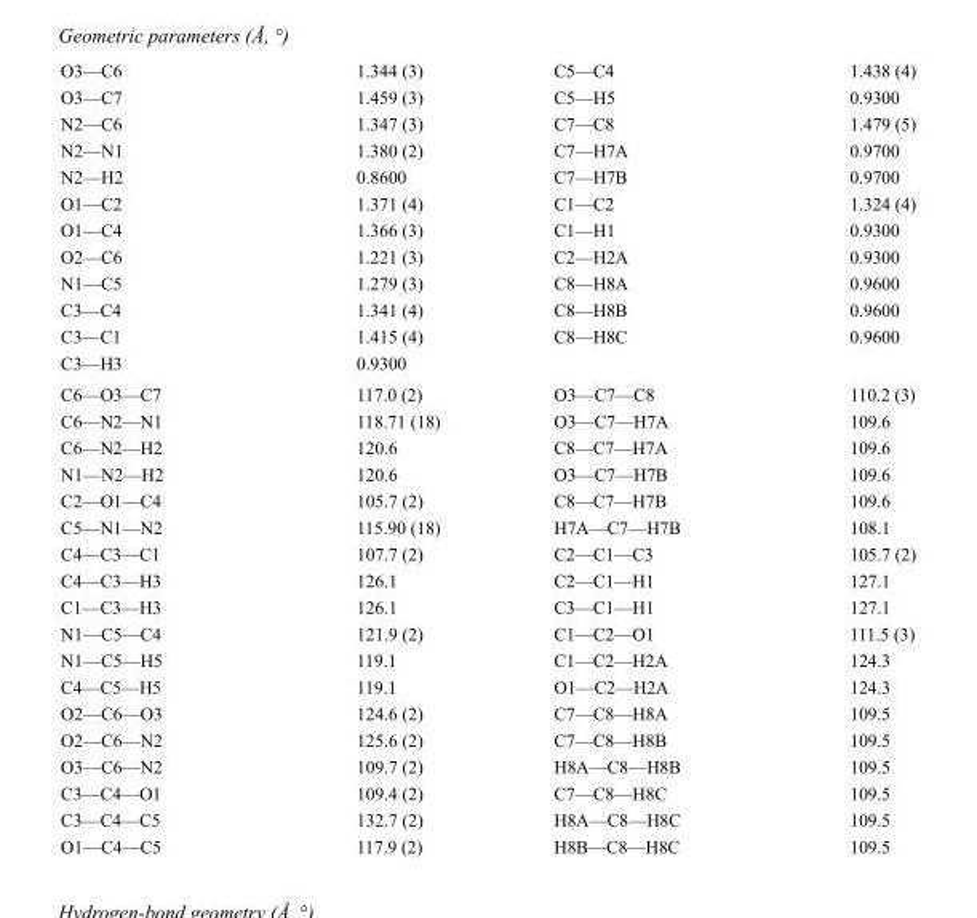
<table><tbody><tr><td>O3—C6</td><td>1.344 (3)</td><td>C5—C4</td><td>1.438 (4)</td></tr><tr><td>O3—C7</td><td>1.459 (3)</td><td>C5—H5</td><td>0.9300</td></tr><tr><td>N2—C6</td><td>1.347 (3)</td><td>C7—C8</td><td>1.479 (5)</td></tr><tr><td>N2—N1</td><td>1.380 (2)</td><td>C7—H7A</td><td>0.9700</td></tr><tr><td>N2—H2</td><td>0.8600</td><td>C7—H7B</td><td>0.9700</td></tr><tr><td>O1—C2</td><td>1.371 (4)</td><td>C1—C2</td><td>1.324 (4)</td></tr><tr><td>O1—C4</td><td>1.366 (3)</td><td>C1—H1</td><td>0.9300</td></tr><tr><td>O2—C6</td><td>1.221 (3)</td><td>C2—H2A</td><td>0.9300</td></tr><tr><td>N1—C5</td><td>1.279 (3)</td><td>C8—H8A</td><td>0.9600</td></tr><tr><td>C3—C4</td><td>1.341 (4)</td><td>C8—H8B</td><td>0.9600</td></tr><tr><td>C3—C1</td><td>1.415 (4)</td><td>C8—H8C</td><td>0.9600</td></tr><tr><td>C3—H3</td><td>0.9300</td><td></td><td></td></tr><tr><td>C6—O3—C7</td><td>117.0 (2)</td><td>O3—C7—C8</td><td>110.2 (3)</td></tr><tr><td>C6—N2—N1</td><td>118.71 (18)</td><td>O3—C7—H7A</td><td>109.6</td></tr><tr><td>C6—N2—H2</td><td>120.6</td><td>C8—C7—H7A</td><td>109.6</td></tr><tr><td>N1—N2—H2</td><td>120.6</td><td>O3—C7—H7B</td><td>109.6</td></tr><tr><td>C2—O1—C4</td><td>105.7 (2)</td><td>C8—C7—H7B</td><td>109.6</td></tr><tr><td>C5—N1—N2</td><td>115.90 (18)</td><td>H7A—C7—H7B</td><td>108.1</td></tr><tr><td>C4—C3—C1</td><td>107.7 (2)</td><td>C2—C1—C3</td><td>105.7 (2)</td></tr><tr><td>C4—C3—H3</td><td>126.1</td><td>C2—C1—H1</td><td>127.1</td></tr><tr><td>C1—C3—H3</td><td>126.1</td><td>C3—C1—H1</td><td>127.1</td></tr><tr><td>N1—C5—C4</td><td>121.9 (2)</td><td>C1—C2—O1</td><td>111.5 (3)</td></tr><tr><td>N1—C5—H5</td><td>119.1</td><td>C1—C2—H2A</td><td>124.3</td></tr><tr><td>C4—C5—H5</td><td>119.1</td><td>O1—C2—H2A</td><td>124.3</td></tr><tr><td>O2—C6—O3</td><td>124.6 (2)</td><td>C7—C8—H8A</td><td>109.5</td></tr><tr><td>O2—C6—N2</td><td>125.6 (2)</td><td>C7—C8—H8B</td><td>109.5</td></tr><tr><td>O3—C6—N2</td><td>109.7 (2)</td><td>H8A—C8—H8B</td><td>109.5</td></tr><tr><td>C3—C4—O1</td><td>109.4 (2)</td><td>C7—C8—H8C</td><td>109.5</td></tr><tr><td>C3—C4—C5</td><td>132.7 (2)</td><td>H8A—C8—H8C</td><td>109.5</td></tr><tr><td>O1—C4—C5</td><td>117.9 (2)</td><td>H8B—C8—H8C</td><td>109.5</td></tr></tbody></table>